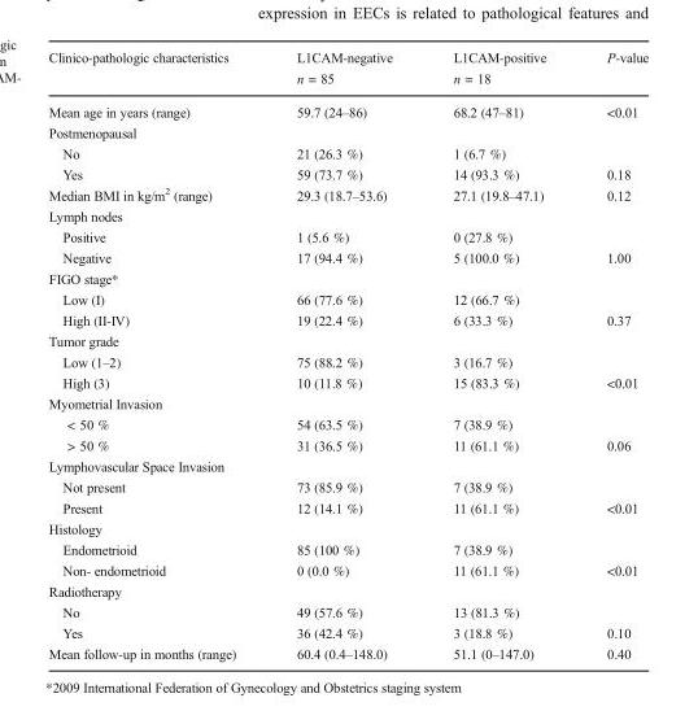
<table><thead><tr><td>Clinico-pathologic characteristics</td><td>L1CAM-negative n = 85</td><td>L1CAM-positive n = 18</td><td>P-value</td></tr></thead><tbody><tr><td>Mean age in years (range)</td><td>59.7 (24–86)</td><td>68.2 (47–81)</td><td>&lt;0.01</td></tr><tr><td colspan="4">Postmenopausal</td></tr><tr><td>No</td><td>21 (26.3 %)</td><td>1 (6.7 %)</td><td></td></tr><tr><td>Yes</td><td>59 (73.7 %)</td><td>14 (93.3 %)</td><td>0.18</td></tr><tr><td>Median BMI in kg/m<sup>2</sup> (range)</td><td>29.3 (18.7–53.6)</td><td>27.1 (19.8–47.1)</td><td>0.12</td></tr><tr><td colspan="4">Lymph nodes</td></tr><tr><td>Positive</td><td>1 (5.6 %)</td><td>0 (27.8 %)</td><td></td></tr><tr><td>Negative</td><td>17 (94.4 %)</td><td>5 (100.0 %)</td><td>1.00</td></tr><tr><td colspan="4">FIGO stage*</td></tr><tr><td>Low (I)</td><td>66 (77.6 %)</td><td>12 (66.7 %)</td><td></td></tr><tr><td>High (II-IV)</td><td>19 (22.4 %)</td><td>6 (33.3 %)</td><td>0.37</td></tr><tr><td colspan="4">Tumor grade</td></tr><tr><td>Low (1–2)</td><td>75 (88.2 %)</td><td>3 (16.7 %)</td><td></td></tr><tr><td>High (3)</td><td>10 (11.8 %)</td><td>15 (83.3 %)</td><td>&lt;0.01</td></tr><tr><td colspan="4">Myometrial Invasion</td></tr><tr><td>&lt; 50 %</td><td>54 (63.5 %)</td><td>7 (38.9 %)</td><td></td></tr><tr><td>&gt; 50 %</td><td>31 (36.5 %)</td><td>11 (61.1 %)</td><td>0.06</td></tr><tr><td colspan="4">Lymphovascular Space Invasion</td></tr><tr><td>Not present</td><td>73 (85.9 %)</td><td>7 (38.9 %)</td><td></td></tr><tr><td>Present</td><td>12 (14.1 %)</td><td>11 (61.1 %)</td><td>&lt;0.01</td></tr><tr><td colspan="4">Histology</td></tr><tr><td>Endometrioid</td><td>85 (100 %)</td><td>7 (38.9 %)</td><td></td></tr><tr><td>Non- endometrioid</td><td>0 (0.0 %)</td><td>11 (61.1 %)</td><td>&lt;0.01</td></tr><tr><td colspan="4">Radiotherapy</td></tr><tr><td>No</td><td>49 (57.6 %)</td><td>13 (81.3 %)</td><td></td></tr><tr><td>Yes</td><td>36 (42.4 %)</td><td>3 (18.8 %)</td><td>0.10</td></tr><tr><td>Mean follow-up in months (range)</td><td>60.4 (0.4–148.0)</td><td>51.1 (0–147.0)</td><td>0.40</td></tr></tbody></table>